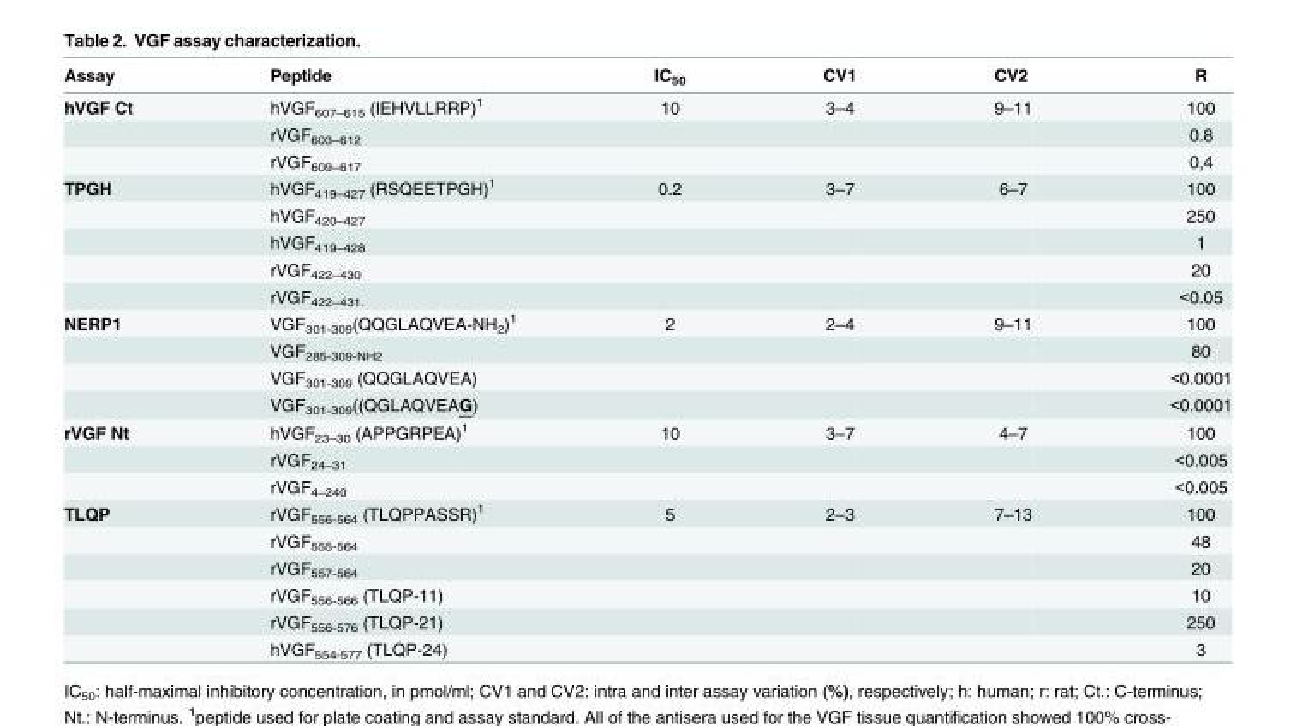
<table><thead><tr><td>Assay</td><td>Peptide</td><td>IC<sub>50</sub></td><td>CV1</td><td>CV2</td><td>R</td></tr></thead><tbody><tr><td rowspan="3">hVGF Ct</td><td>hVGF<sub>607–615</sub> (IEHVLLRRP)<sup>1</sup></td><td>10</td><td>3–4</td><td>9–11</td><td>100</td></tr><tr><td>rVGF<sub>603–612</sub></td><td></td><td></td><td></td><td>0.8</td></tr><tr><td>rVGF<sub>609–617</sub></td><td></td><td></td><td></td><td>0,4</td></tr><tr><td rowspan="5">TPGH</td><td>hVGF<sub>419–427</sub> (RSQEETPGH)<sup>1</sup></td><td>0.2</td><td>3–7</td><td>6–7</td><td>100</td></tr><tr><td>hVGF<sub>420–427</sub></td><td></td><td></td><td></td><td>250</td></tr><tr><td>hVGF<sub>419–428</sub></td><td></td><td></td><td></td><td>1</td></tr><tr><td>rVGF<sub>422–430</sub></td><td></td><td></td><td></td><td>20</td></tr><tr><td>rVGF<sub>422–431.</sub></td><td></td><td></td><td></td><td>&lt;0.05</td></tr><tr><td rowspan="4">NERP1</td><td>VGF<sub>301-309</sub>(QQGLAQVEA-NH<sub>2</sub>)<sup>1</sup></td><td>2</td><td>2–4</td><td>9–11</td><td>100</td></tr><tr><td>VGF<sub>285-309-NH2</sub></td><td></td><td></td><td></td><td>80</td></tr><tr><td>VGF<sub>301-309</sub> (QQGLAQVEA)</td><td></td><td></td><td></td><td>&lt;0.0001</td></tr><tr><td>VGF<sub>301-309</sub>((QGLAQVEAG)</td><td></td><td></td><td></td><td>&lt;0.0001</td></tr><tr><td rowspan="3">rVGF Nt</td><td>hVGF<sub>23–30</sub> (APPGRPEA)<sup>1</sup></td><td>10</td><td>3–7</td><td>4–7</td><td>100</td></tr><tr><td>rVGF<sub>24–31</sub></td><td></td><td></td><td></td><td>&lt;0.005</td></tr><tr><td>rVGF<sub>4–240</sub></td><td></td><td></td><td></td><td>&lt;0.005</td></tr><tr><td rowspan="6">TLQP</td><td>rVGF<sub>556-564</sub> (TLQPPASSR)<sup>1</sup></td><td>5</td><td>2–3</td><td>7–13</td><td>100</td></tr><tr><td>rVGF<sub>555-564</sub></td><td></td><td></td><td></td><td>48</td></tr><tr><td>rVGF<sub>557-564</sub></td><td></td><td></td><td></td><td>20</td></tr><tr><td>rVGF<sub>556-566</sub> (TLQP-11)</td><td></td><td></td><td></td><td>10</td></tr><tr><td>rVGF<sub>556-576</sub> (TLQP-21)</td><td></td><td></td><td></td><td>250</td></tr><tr><td>hVGF<sub>554-577</sub> (TLQP-24)</td><td></td><td></td><td></td><td>3</td></tr></tbody></table>